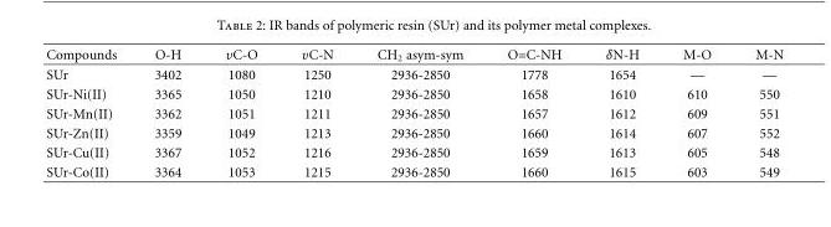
<table><thead><tr><td>Compounds</td><td>O-H</td><td>υC-O</td><td>υC-N</td><td>CH<sub>2</sub> asym-sym</td><td>O=C-NH</td><td>δN-H</td><td>M-O</td><td>M-N</td></tr></thead><tbody><tr><td>SUr</td><td>3402</td><td>1080</td><td>1250</td><td>2936-2850</td><td>1778</td><td>1654</td><td>—</td><td>—</td></tr><tr><td>SUr-Ni(II)</td><td>3365</td><td>1050</td><td>1210</td><td>2936-2850</td><td>1658</td><td>1610</td><td>610</td><td>550</td></tr><tr><td>SUr-Mn(II)</td><td>3362</td><td>1051</td><td>1211</td><td>2936-2850</td><td>1657</td><td>1612</td><td>609</td><td>551</td></tr><tr><td>SUr-Zn(II)</td><td>3359</td><td>1049</td><td>1213</td><td>2936-2850</td><td>1660</td><td>1614</td><td>607</td><td>552</td></tr><tr><td>SUr-Cu(II)</td><td>3367</td><td>1052</td><td>1216</td><td>2936-2850</td><td>1659</td><td>1613</td><td>605</td><td>548</td></tr><tr><td>SUr-Co(II)</td><td>3364</td><td>1053</td><td>1215</td><td>2936-2850</td><td>1660</td><td>1615</td><td>603</td><td>549</td></tr></tbody></table>